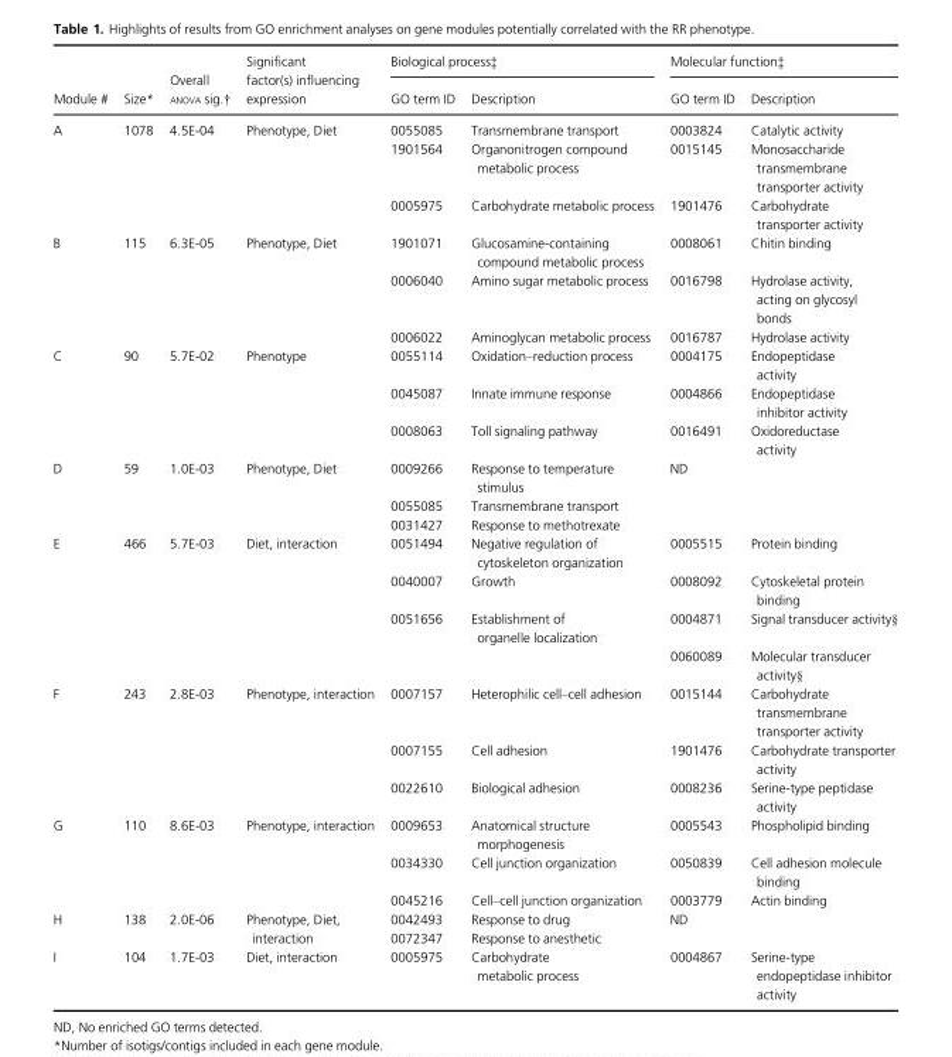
<table><thead><tr><td rowspan="2">Module #</td><td rowspan="2">Size*</td><td rowspan="2">Overall ANOVA sig.†</td><td rowspan="2">Significant factor(s) influencing expression</td><td colspan="2">Biological process‡</td><td colspan="2">Molecular function‡</td></tr><tr><td>GO term ID</td><td>Description</td><td>GO term ID</td><td>Description</td></tr></thead><tbody><tr><td rowspan="3">A</td><td rowspan="3">1078</td><td rowspan="3">4.5E-04</td><td rowspan="3">Phenotype, Diet</td><td>0055085</td><td>Transmembrane transport</td><td>0003824</td><td>Catalytic activity</td></tr><tr><td>1901564</td><td>Organonitrogen compound metabolic process</td><td>0015145</td><td>Monosaccharide transmembrane transporter activity</td></tr><tr><td>0005975</td><td>Carbohydrate metabolic process</td><td>1901476</td><td>Carbohydrate transporter activity</td></tr><tr><td rowspan="3">B</td><td rowspan="3">115</td><td rowspan="3">6.3E-05</td><td rowspan="3">Phenotype, Diet</td><td>1901071</td><td>Glucosamine-containing compound metabolic process</td><td>0008061</td><td>Chitin binding</td></tr><tr><td>0006040</td><td>Amino sugar metabolic process</td><td>0016798</td><td>Hydrolase activity, acting on glycosyl bonds</td></tr><tr><td>0006022</td><td>Aminoglycan metabolic process</td><td>0016787</td><td>Hydrolase activity</td></tr><tr><td rowspan="3">C</td><td rowspan="3">90</td><td rowspan="3">5.7E-02</td><td rowspan="3">Phenotype</td><td>0055114</td><td>Oxidation–reduction process</td><td>0004175</td><td>Endopeptidase activity</td></tr><tr><td>0045087</td><td>Innate immune response</td><td>0004866</td><td>Endopeptidase inhibitor activity</td></tr><tr><td>0008063</td><td>Toll signaling pathway</td><td>0016491</td><td>Oxidoreductase activity</td></tr><tr><td rowspan="3">D</td><td rowspan="3">59</td><td rowspan="3">1.0E-03</td><td rowspan="3">Phenotype, Diet</td><td>0009266</td><td>Response to temperature stimulus</td><td>ND</td><td></td></tr><tr><td>0055085</td><td>Transmembrane transport</td><td></td><td></td></tr><tr><td>0031427</td><td>Response to methotrexate</td><td></td><td></td></tr><tr><td rowspan="4">E</td><td rowspan="4">466</td><td rowspan="4">5.7E-03</td><td rowspan="4">Diet, interaction</td><td>0051494</td><td>Negative regulation of cytoskeleton organization</td><td>0005515</td><td>Protein binding</td></tr><tr><td>0040007</td><td>Growth</td><td>0008092</td><td>Cytoskeletal protein binding</td></tr><tr><td>0051656</td><td>Establishment of organelle localization</td><td>0004871</td><td>Signal transducer activity§</td></tr><tr><td></td><td></td><td>0060089</td><td>Molecular transducer activity§</td></tr><tr><td rowspan="3">F</td><td rowspan="3">243</td><td rowspan="3">2.8E-03</td><td rowspan="3">Phenotype, interaction</td><td>0007157</td><td>Heterophilic cell–cell adhesion</td><td>0015144</td><td>Carbohydrate transmembrane transporter activity</td></tr><tr><td>0007155</td><td>Cell adhesion</td><td>1901476</td><td>Carbohydrate transporter activity</td></tr><tr><td>0022610</td><td>Biological adhesion</td><td>0008236</td><td>Serine-type peptidase activity</td></tr><tr><td rowspan="3">G</td><td rowspan="3">110</td><td rowspan="3">8.6E-03</td><td rowspan="3">Phenotype, interaction</td><td>0009653</td><td>Anatomical structure morphogenesis</td><td>0005543</td><td>Phospholipid binding</td></tr><tr><td>0034330</td><td>Cell junction organization</td><td>0050839</td><td>Cell adhesion molecule binding</td></tr><tr><td>0045216</td><td>Cell–cell junction organization</td><td>0003779</td><td>Actin binding</td></tr><tr><td rowspan="2">H</td><td rowspan="2">138</td><td rowspan="2">2.0E-06</td><td rowspan="2">Phenotype, Diet, interaction</td><td>0042493</td><td>Response to drug</td><td>ND</td><td></td></tr><tr><td>0072347</td><td>Response to anesthetic</td><td></td><td></td></tr><tr><td>I</td><td>104</td><td>1.7E-03</td><td>Diet, interaction</td><td>0005975</td><td>Carbohydrate metabolic process</td><td>0004867</td><td>Serine-type endopeptidase inhibitor activity</td></tr></tbody></table>